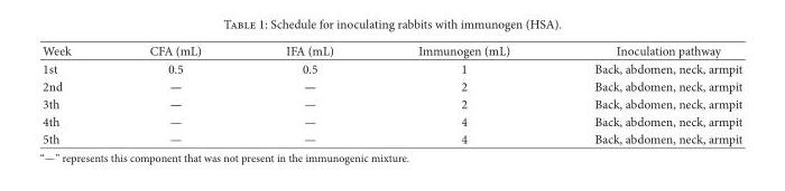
<table><thead><tr><td>Week</td><td>CFA (mL)</td><td>IFA (mL)</td><td>Immunogen (mL)</td><td>Inoculation pathway</td></tr></thead><tbody><tr><td>1st</td><td>0.5</td><td>0.5</td><td>1</td><td>Back, abdomen, neck, armpit</td></tr><tr><td>2nd</td><td>—</td><td>—</td><td>2</td><td>Back, abdomen, neck, armpit</td></tr><tr><td>3th</td><td>—</td><td>—</td><td>2</td><td>Back, abdomen, neck, armpit</td></tr><tr><td>4th</td><td>—</td><td>—</td><td>4</td><td>Back, abdomen, neck, armpit</td></tr><tr><td>5th</td><td>—</td><td>—</td><td>4</td><td>Back, abdomen, neck, armpit</td></tr></tbody></table>